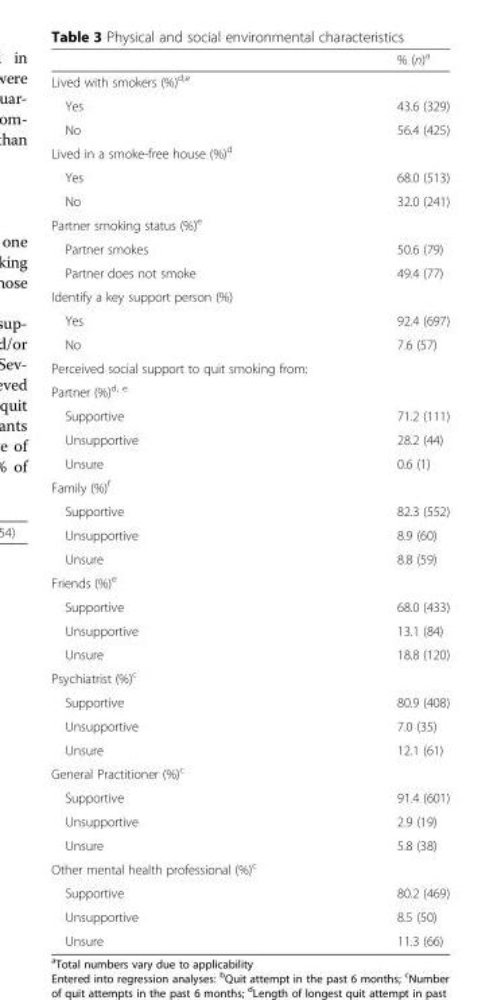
<table><thead><tr><td></td><td>% (n)<sup>a</sup></td></tr></thead><tbody><tr><td colspan="2">Lived with smokers (%)<sup>d,e</sup></td></tr><tr><td>Yes</td><td>43.6 (329)</td></tr><tr><td>No</td><td>56.4 (425)</td></tr><tr><td colspan="2">Lived in a smoke-free house (%)<sup>d</sup></td></tr><tr><td>Yes</td><td>68.0 (513)</td></tr><tr><td>No</td><td>32.0 (241)</td></tr><tr><td colspan="2">Partner smoking status (%)<sup>e</sup></td></tr><tr><td>Partner smokes</td><td>50.6 (79)</td></tr><tr><td>Partner does not smoke</td><td>49.4 (77)</td></tr><tr><td colspan="2">Identify a key support person (%)</td></tr><tr><td>Yes</td><td>92.4 (697)</td></tr><tr><td>No</td><td>7.6 (57)</td></tr><tr><td colspan="2">Perceived social support to quit smoking from:</td></tr><tr><td colspan="2">Partner (%)<sup>d, e</sup></td></tr><tr><td>Supportive</td><td>71.2 (111)</td></tr><tr><td>Unsupportive</td><td>28.2 (44)</td></tr><tr><td>Unsure</td><td>0.6 (1)</td></tr><tr><td colspan="2">Family (%)<sup>f</sup></td></tr><tr><td>Supportive</td><td>82.3 (552)</td></tr><tr><td>Unsupportive</td><td>8.9 (60)</td></tr><tr><td>Unsure</td><td>8.8 (59)</td></tr><tr><td colspan="2">Friends (%)<sup>e</sup></td></tr><tr><td>Supportive</td><td>68.0 (433)</td></tr><tr><td>Unsupportive</td><td>13.1 (84)</td></tr><tr><td>Unsure</td><td>18.8 (120)</td></tr><tr><td colspan="2">Psychiatrist (%)<sup>c</sup></td></tr><tr><td>Supportive</td><td>80.9 (408)</td></tr><tr><td>Unsupportive</td><td>7.0 (35)</td></tr><tr><td>Unsure</td><td>12.1 (61)</td></tr><tr><td colspan="2">General Practitioner (%)<sup>c</sup></td></tr><tr><td>Supportive</td><td>91.4 (601)</td></tr><tr><td>Unsupportive</td><td>2.9 (19)</td></tr><tr><td>Unsure</td><td>5.8 (38)</td></tr><tr><td colspan="2">Other mental health professional (%)<sup>c</sup></td></tr><tr><td>Supportive</td><td>80.2 (469)</td></tr><tr><td>Unsupportive</td><td>8.5 (50)</td></tr><tr><td>Unsure</td><td>11.3 (66)</td></tr></tbody></table>